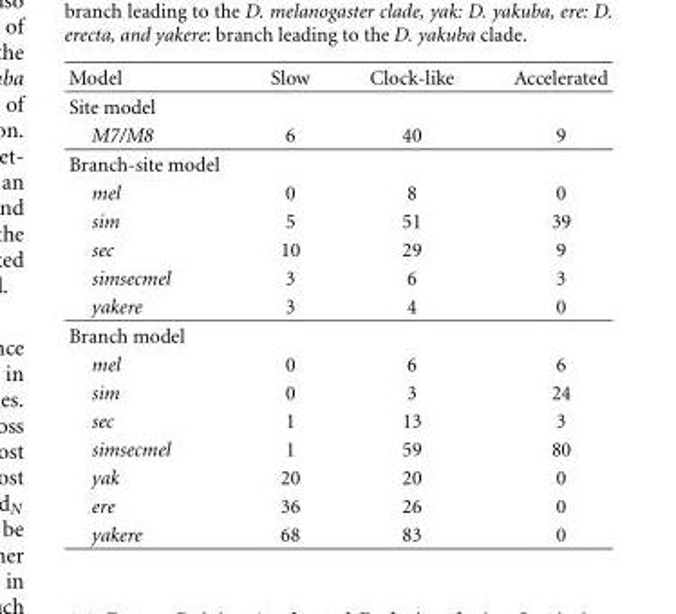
<table><thead><tr><td>Model</td><td>Slow</td><td>Clock-like</td><td>Accelerated</td></tr></thead><tbody><tr><td colspan="4">Site model</td></tr><tr><td>M7/M8</td><td>6</td><td>40</td><td>9</td></tr><tr><td colspan="4">Branch-site model</td></tr><tr><td>mel</td><td>0</td><td>8</td><td>0</td></tr><tr><td>sim</td><td>5</td><td>51</td><td>39</td></tr><tr><td>sec</td><td>10</td><td>29</td><td>9</td></tr><tr><td>simsecmel</td><td>3</td><td>6</td><td>3</td></tr><tr><td>yakere</td><td>3</td><td>4</td><td>0</td></tr><tr><td colspan="4">Branch model</td></tr><tr><td>mel</td><td>0</td><td>6</td><td>6</td></tr><tr><td>sim</td><td>0</td><td>3</td><td>24</td></tr><tr><td>sec</td><td>1</td><td>13</td><td>3</td></tr><tr><td>simsecmel</td><td>1</td><td>59</td><td>80</td></tr><tr><td>yak</td><td>20</td><td>20</td><td>0</td></tr><tr><td>ere</td><td>36</td><td>26</td><td>0</td></tr><tr><td>yakere</td><td>68</td><td>83</td><td>0</td></tr></tbody></table>